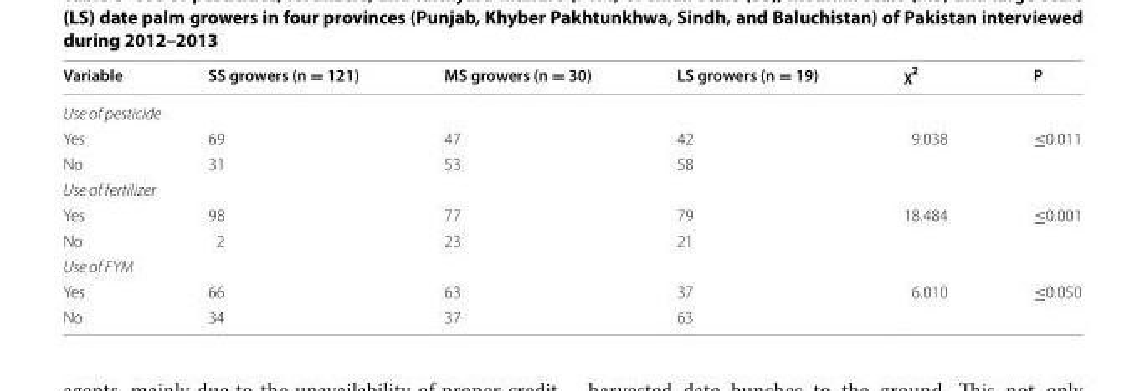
<table><thead><tr><td>Variable</td><td>SS growers (n = 121)</td><td>MS growers (n = 30)</td><td>LS growers (n = 19)</td><td>χ<sup>2</sup></td><td>P</td></tr></thead><tbody><tr><td colspan="6">Use of pesticide</td></tr><tr><td>Yes</td><td>69</td><td>47</td><td>42</td><td rowspan="2">9.038</td><td rowspan="2">≤0.011</td></tr><tr><td>No</td><td>31</td><td>53</td><td>58</td></tr><tr><td colspan="6">Use of fertilizer</td></tr><tr><td>Yes</td><td>98</td><td>77</td><td>79</td><td rowspan="2">18.484</td><td rowspan="2">≤0.001</td></tr><tr><td>No</td><td>2</td><td>23</td><td>21</td></tr><tr><td colspan="6">Use of FYM</td></tr><tr><td>Yes</td><td>66</td><td>63</td><td>37</td><td rowspan="2">6.010</td><td rowspan="2">≤0.050</td></tr><tr><td>No</td><td>34</td><td>37</td><td>63</td></tr></tbody></table>